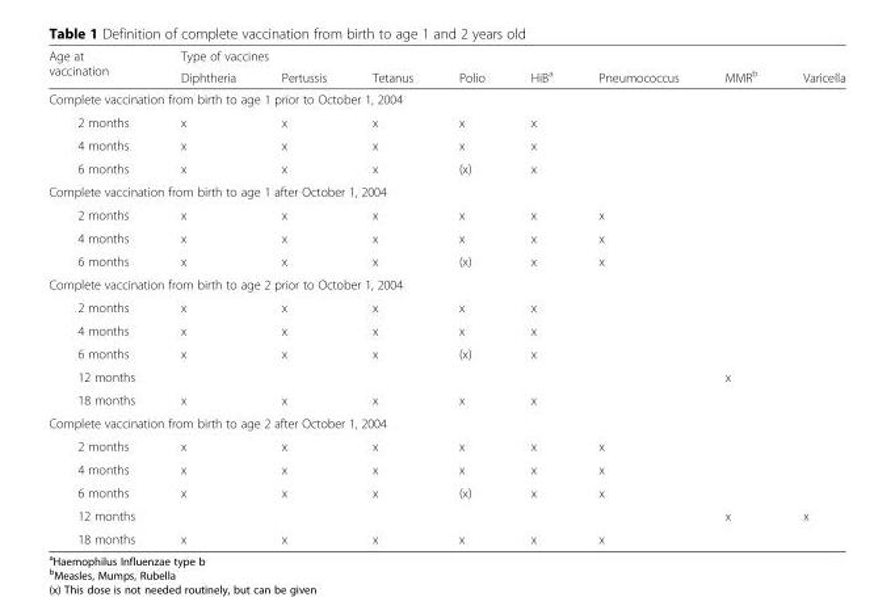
<table><thead><tr><td rowspan="2">Age at vaccination</td><td colspan="8">Type of vaccines</td></tr><tr><td>Diphtheria</td><td>Pertussis</td><td>Tetanus</td><td>Polio</td><td>HiB<sup>a</sup></td><td>Pneumococcus</td><td>MMR<sup>b</sup></td><td>Varicella</td></tr></thead><tbody><tr><td colspan="9">Complete vaccination from birth to age 1 prior to October 1, 2004</td></tr><tr><td>2 months</td><td>x</td><td>x</td><td>x</td><td>x</td><td>x</td><td></td><td></td><td></td></tr><tr><td>4 months</td><td>x</td><td>x</td><td>x</td><td>x</td><td>x</td><td></td><td></td><td></td></tr><tr><td>6 months</td><td>x</td><td>x</td><td>x</td><td>(x)</td><td>x</td><td></td><td></td><td></td></tr><tr><td colspan="9">Complete vaccination from birth to age 1 after October 1, 2004</td></tr><tr><td>2 months</td><td>x</td><td>x</td><td>x</td><td>x</td><td>x</td><td>x</td><td></td><td></td></tr><tr><td>4 months</td><td>x</td><td>x</td><td>x</td><td>x</td><td>x</td><td>x</td><td></td><td></td></tr><tr><td>6 months</td><td>x</td><td>x</td><td>x</td><td>(x)</td><td>x</td><td>x</td><td></td><td></td></tr><tr><td colspan="9">Complete vaccination from birth to age 2 prior to October 1, 2004</td></tr><tr><td>2 months</td><td>x</td><td>x</td><td>x</td><td>x</td><td>x</td><td></td><td></td><td></td></tr><tr><td>4 months</td><td>x</td><td>x</td><td>x</td><td>x</td><td>x</td><td></td><td></td><td></td></tr><tr><td>6 months</td><td>x</td><td>x</td><td>x</td><td>(x)</td><td>x</td><td></td><td></td><td></td></tr><tr><td>12 months</td><td></td><td></td><td></td><td></td><td></td><td></td><td>x</td><td></td></tr><tr><td>18 months</td><td>x</td><td>x</td><td>x</td><td>x</td><td>x</td><td></td><td></td><td></td></tr><tr><td colspan="9">Complete vaccination from birth to age 2 after October 1, 2004</td></tr><tr><td>2 months</td><td>x</td><td>x</td><td>x</td><td>x</td><td>x</td><td>x</td><td></td><td></td></tr><tr><td>4 months</td><td>x</td><td>x</td><td>x</td><td>x</td><td>x</td><td>x</td><td></td><td></td></tr><tr><td>6 months</td><td>x</td><td>x</td><td>x</td><td>(x)</td><td>x</td><td>x</td><td></td><td></td></tr><tr><td>12 months</td><td></td><td></td><td></td><td></td><td></td><td></td><td>x</td><td>x</td></tr><tr><td>18 months</td><td>x</td><td>x</td><td>x</td><td>x</td><td>x</td><td>x</td><td></td><td></td></tr></tbody></table>